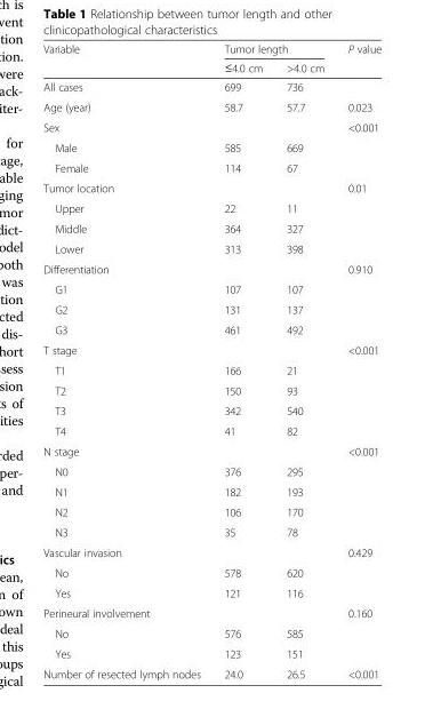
<table><thead><tr><td rowspan="2">Variable</td><td colspan="2">Tumor length</td><td rowspan="2">P value</td></tr><tr><td>≤4.0 cm</td><td>&gt;4.0 cm</td></tr></thead><tbody><tr><td>All cases</td><td>699</td><td>736</td><td></td></tr><tr><td>Age (year)</td><td>58.7</td><td>57.7</td><td>0.023</td></tr><tr><td>Sex</td><td></td><td></td><td>&lt;0.001</td></tr><tr><td>Male</td><td>585</td><td>669</td><td></td></tr><tr><td>Female</td><td>114</td><td>67</td><td></td></tr><tr><td>Tumor location</td><td></td><td></td><td>0.01</td></tr><tr><td>Upper</td><td>22</td><td>11</td><td></td></tr><tr><td>Middle</td><td>364</td><td>327</td><td></td></tr><tr><td>Lower</td><td>313</td><td>398</td><td></td></tr><tr><td>Differentiation</td><td></td><td></td><td>0.910</td></tr><tr><td>G1</td><td>107</td><td>107</td><td></td></tr><tr><td>G2</td><td>131</td><td>137</td><td></td></tr><tr><td>G3</td><td>461</td><td>492</td><td></td></tr><tr><td>T stage</td><td></td><td></td><td>&lt;0.001</td></tr><tr><td>T1</td><td>166</td><td>21</td><td></td></tr><tr><td>T2</td><td>150</td><td>93</td><td></td></tr><tr><td>T3</td><td>342</td><td>540</td><td></td></tr><tr><td>T4</td><td>41</td><td>82</td><td></td></tr><tr><td>N stage</td><td></td><td></td><td>&lt;0.001</td></tr><tr><td>N0</td><td>376</td><td>295</td><td></td></tr><tr><td>N1</td><td>182</td><td>193</td><td></td></tr><tr><td>N2</td><td>106</td><td>170</td><td></td></tr><tr><td>N3</td><td>35</td><td>78</td><td></td></tr><tr><td>Vascular invasion</td><td></td><td></td><td>0.429</td></tr><tr><td>No</td><td>578</td><td>620</td><td></td></tr><tr><td>Yes</td><td>121</td><td>116</td><td></td></tr><tr><td>Perineural involvement</td><td></td><td></td><td>0.160</td></tr><tr><td>No</td><td>576</td><td>585</td><td></td></tr><tr><td>Yes</td><td>123</td><td>151</td><td></td></tr><tr><td>Number of resected lymph nodes</td><td>24.0</td><td>26.5</td><td>&lt;0.001</td></tr></tbody></table>